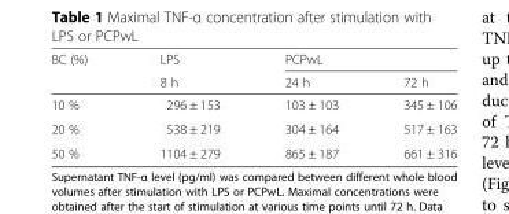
<table><thead><tr><td rowspan="2">BC (%)</td><td rowspan="2">LPS 8 h</td><td colspan="2">PCPwL</td></tr><tr><td>24 h</td><td>72 h</td></tr></thead><tbody><tr><td>10 %</td><td>296 ± 153</td><td>103 ± 103</td><td>345 ± 106</td></tr><tr><td>20 %</td><td>538 ± 219</td><td>304 ± 164</td><td>517 ± 163</td></tr><tr><td>50 %</td><td>1104 ± 279</td><td>865 ± 187</td><td>661 ± 316</td></tr></tbody></table>